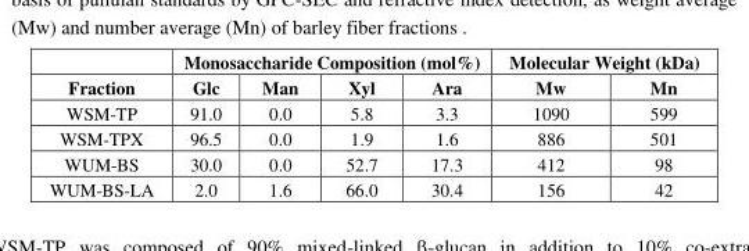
<table><thead><tr><td rowspan="2">Fraction</td><td colspan="4">Monosaccharide Composition (mol%)</td><td colspan="2">Molecular Weight (kDa)</td></tr><tr><td>Glc</td><td>Man</td><td>Xyl</td><td>Ara</td><td>Mw</td><td>Mn</td></tr></thead><tbody><tr><td>WSM-TP</td><td>91.0</td><td>0.0</td><td>5.8</td><td>3.3</td><td>1090</td><td>599</td></tr><tr><td>WSM-TPX</td><td>96.5</td><td>0.0</td><td>1.9</td><td>1.6</td><td>886</td><td>501</td></tr><tr><td>WUM-BS</td><td>30.0</td><td>0.0</td><td>52.7</td><td>17.3</td><td>412</td><td>98</td></tr><tr><td>WUM-BS-LA</td><td>2.0</td><td>1.6</td><td>66.0</td><td>30.4</td><td>156</td><td>42</td></tr></tbody></table>